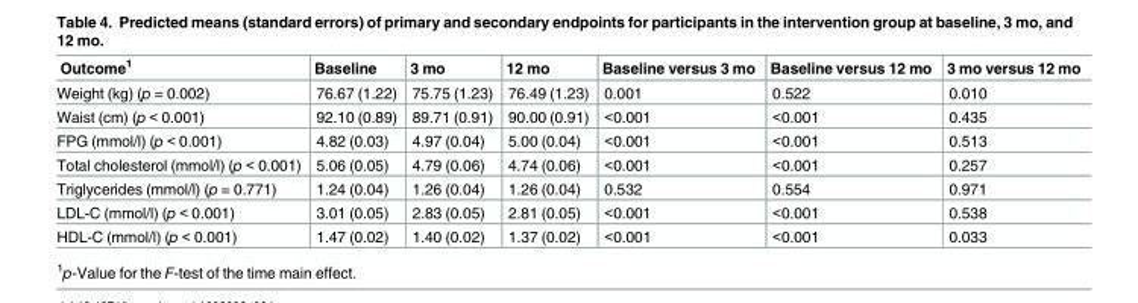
<table><thead><tr><td>Outcome<sup>1</sup></td><td>Baseline</td><td>3 mo</td><td>12 mo</td><td>Baseline versus 3 mo</td><td>Baseline versus 12 mo</td><td>3 mo versus 12 mo</td></tr></thead><tbody><tr><td>Weight (kg) (p = 0.002)</td><td>76.67 (1.22)</td><td>75.75 (1.23)</td><td>76.49 (1.23)</td><td>0.001</td><td>0.522</td><td>0.010</td></tr><tr><td>Waist (cm) (p &lt; 0.001)</td><td>92.10 (0.89)</td><td>89.71 (0.91)</td><td>90.00 (0.91)</td><td>&lt;0.001</td><td>&lt;0.001</td><td>0.435</td></tr><tr><td>FPG (mmol/l) (p &lt; 0.001)</td><td>4.82 (0.03)</td><td>4.97 (0.04)</td><td>5.00 (0.04)</td><td>&lt;0.001</td><td>&lt;0.001</td><td>0.513</td></tr><tr><td>Total cholesterol (mmol/l) (p &lt; 0.001)</td><td>5.06 (0.05)</td><td>4.79 (0.06)</td><td>4.74 (0.06)</td><td>&lt;0.001</td><td>&lt;0.001</td><td>0.257</td></tr><tr><td>Triglycerides (mmol/l) (p = 0.771)</td><td>1.24 (0.04)</td><td>1.26 (0.04)</td><td>1.26 (0.04)</td><td>0.532</td><td>0.554</td><td>0.971</td></tr><tr><td>LDL-C (mmol/l) (p &lt; 0.001)</td><td>3.01 (0.05)</td><td>2.83 (0.05)</td><td>2.81 (0.05)</td><td>&lt;0.001</td><td>&lt;0.001</td><td>0.538</td></tr><tr><td>HDL-C (mmol/l) (p &lt; 0.001)</td><td>1.47 (0.02)</td><td>1.40 (0.02)</td><td>1.37 (0.02)</td><td>&lt;0.001</td><td>&lt;0.001</td><td>0.033</td></tr></tbody></table>